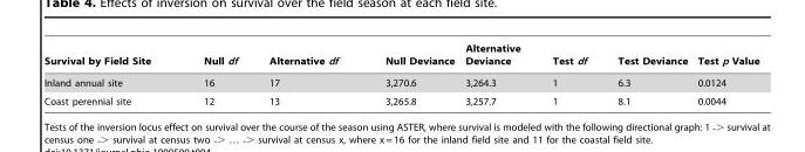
<table><thead><tr><td>Survival by Field Site</td><td>Null df</td><td>Alternative df</td><td>Null Deviance</td><td>Alternative Deviance</td><td>Test df</td><td>Test Deviance</td><td>Test p Value</td></tr></thead><tbody><tr><td>Inland annual site</td><td>16</td><td>17</td><td>3,270.6</td><td>3,264.3</td><td>1</td><td>6.3</td><td>0.0124</td></tr><tr><td>Coast perennial site</td><td>12</td><td>13</td><td>3,265.8</td><td>3,257.7</td><td>1</td><td>8.1</td><td>0.0044</td></tr></tbody></table>